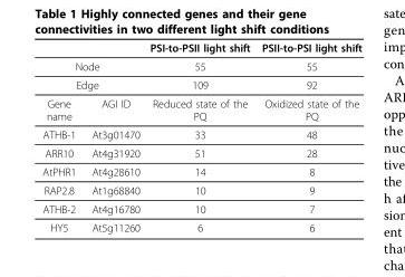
<table><thead><tr><td></td><td></td><td>PSI-to-PSII light shift</td><td>PSII-to-PSI light shift</td></tr></thead><tbody><tr><td colspan="2">Node</td><td>55</td><td>55</td></tr><tr><td colspan="2">Edge</td><td>109</td><td>92</td></tr><tr><td>Gene name</td><td>AGI ID</td><td>Reduced state of the PQ</td><td>Oxidized state of the PQ</td></tr><tr><td>ATHB-1</td><td>At3g01470</td><td>33</td><td>48</td></tr><tr><td>ARR10</td><td>At4g31920</td><td>51</td><td>28</td></tr><tr><td>AtPHR1</td><td>At4g28610</td><td>14</td><td>8</td></tr><tr><td>RAP2.8</td><td>At1g68840</td><td>10</td><td>9</td></tr><tr><td>ATHB-2</td><td>At4g16780</td><td>10</td><td>7</td></tr><tr><td>HY5</td><td>At5g11260</td><td>6</td><td>6</td></tr></tbody></table>